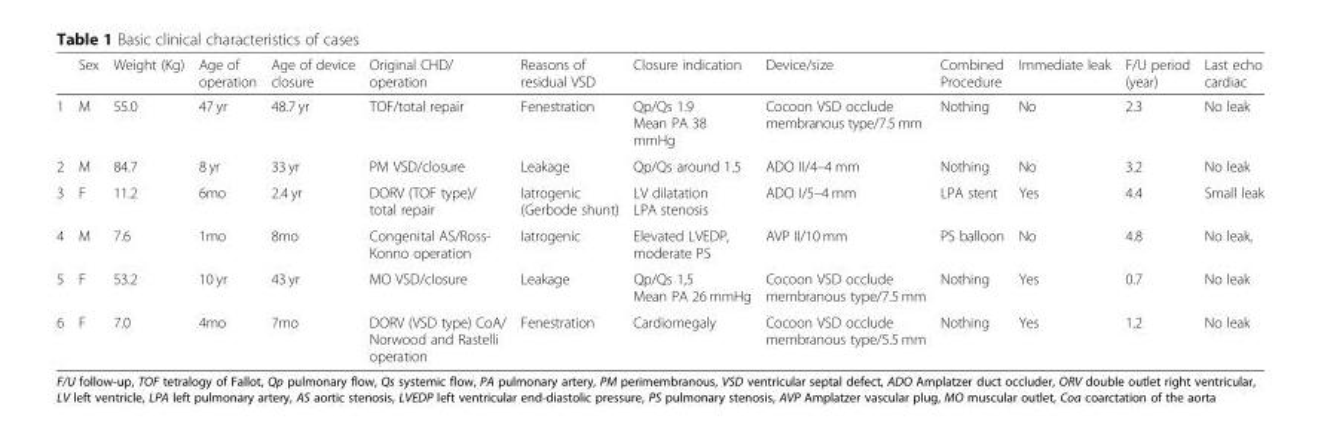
<table><thead><tr><td></td><td>Sex</td><td>Weight (Kg)</td><td>Age of operation</td><td>Age of device closure</td><td>Original CHD/ operation</td><td>Reasons of residual VSD</td><td>Closure indication</td><td>Device/size</td><td>Combined Procedure</td><td>Immediate leak</td><td>F/U period (year)</td><td>Last echo cardiac</td></tr></thead><tbody><tr><td>1</td><td>M</td><td>55.0</td><td>47 yr</td><td>48.7 yr</td><td>TOF/total repair</td><td>Fenestration</td><td>Qp/Qs 1.9 Mean PA 38 mmHg</td><td>Cocoon VSD occlude membranous type/7.5 mm</td><td>Nothing</td><td>No</td><td>2.3</td><td>No leak</td></tr><tr><td>2</td><td>M</td><td>84.7</td><td>8 yr</td><td>33 yr</td><td>PM VSD/closure</td><td>Leakage</td><td>Qp/Qs around 1.5</td><td>ADO II/4–4 mm</td><td>Nothing</td><td>No</td><td>3.2</td><td>No leak</td></tr><tr><td>3</td><td>F</td><td>11.2</td><td>6mo</td><td>2.4 yr</td><td>DORV (TOF type)/ total repair</td><td>Iatrogenic (Gerbode shunt)</td><td>LV dilatation LPA stenosis</td><td>ADO I/5–4 mm</td><td>LPA stent</td><td>Yes</td><td>4.4</td><td>Small leak</td></tr><tr><td>4</td><td>M</td><td>7.6</td><td>1mo</td><td>8mo</td><td>Congenital AS/Ross- Konno operation</td><td>Iatrogenic</td><td>Elevated LVEDP, moderate PS</td><td>AVP II/10 mm</td><td>PS balloon</td><td>No</td><td>4.8</td><td>No leak,</td></tr><tr><td>5</td><td>F</td><td>53.2</td><td>10 yr</td><td>43 yr</td><td>MO VSD/closure</td><td>Leakage</td><td>Qp/Qs 1,5 Mean PA 26 mmHg</td><td>Cocoon VSD occlude membranous type/7.5 mm</td><td>Nothing</td><td>Yes</td><td>0.7</td><td>No leak</td></tr><tr><td>6</td><td>F</td><td>7.0</td><td>4mo</td><td>7mo</td><td>DORV (VSD type) CoA/ Norwood and Rastelli operation</td><td>Fenestration</td><td>Cardiomegaly</td><td>Cocoon VSD occlude membranous type/5.5 mm</td><td>Nothing</td><td>Yes</td><td>1.2</td><td>No leak</td></tr></tbody></table>